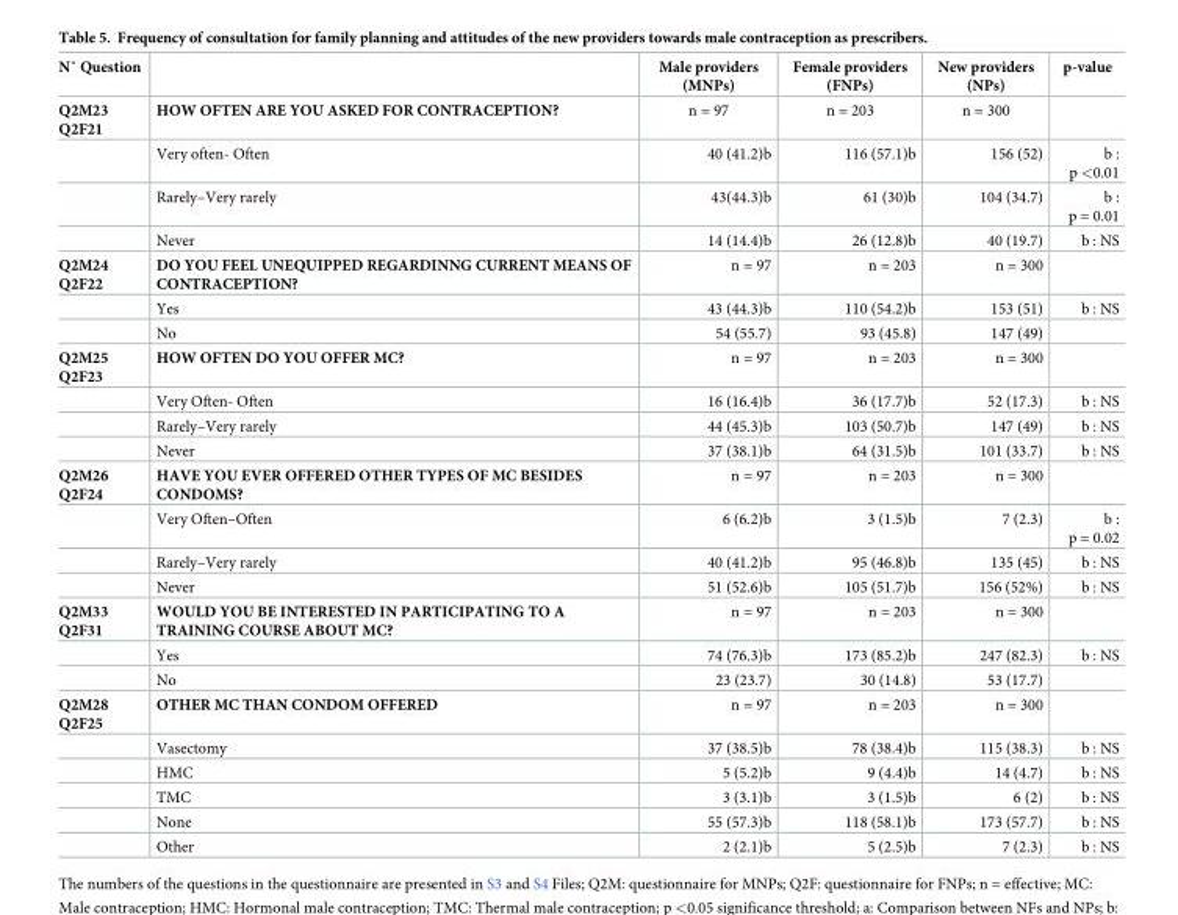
<table><thead><tr><td>N˚ Question</td><td></td><td>Male providers (MNPs)</td><td>Female providers (FNPs)</td><td>New providers (NPs)</td><td>p-value</td></tr></thead><tbody><tr><td rowspan="4">Q2M23 Q2F21</td><td>HOW OFTEN ARE YOU ASKED FOR CONTRACEPTION?</td><td>n = 97</td><td>n = 203</td><td>n = 300</td><td></td></tr><tr><td>Very often- Often</td><td>40 (41.2)b</td><td>116 (57.1)b</td><td>156 (52)</td><td>b : p &lt;0.01</td></tr><tr><td>Rarely–Very rarely</td><td>43(44.3)b</td><td>61 (30)b</td><td>104 (34.7)</td><td>b : p = 0.01</td></tr><tr><td>Never</td><td>14 (14.4)b</td><td>26 (12.8)b</td><td>40 (19.7)</td><td>b : NS</td></tr><tr><td rowspan="3">Q2M24 Q2F22</td><td>DO YOU FEEL UNEQUIPPED REGARDINNG CURRENT MEANS OF CONTRACEPTION?</td><td>n = 97</td><td>n = 203</td><td>n = 300</td><td></td></tr><tr><td>Yes</td><td>43 (44.3)b</td><td>110 (54.2)b</td><td>153 (51)</td><td>b : NS</td></tr><tr><td>No</td><td>54 (55.7)</td><td>93 (45.8)</td><td>147 (49)</td><td></td></tr><tr><td rowspan="4">Q2M25 Q2F23</td><td>HOW OFTEN DO YOU OFFER MC?</td><td>n = 97</td><td>n = 203</td><td>n = 300</td><td></td></tr><tr><td>Very Often- Often</td><td>16 (16.4)b</td><td>36 (17.7)b</td><td>52 (17.3)</td><td>b : NS</td></tr><tr><td>Rarely–Very rarely</td><td>44 (45.3)b</td><td>103 (50.7)b</td><td>147 (49)</td><td>b : NS</td></tr><tr><td>Never</td><td>37 (38.1)b</td><td>64 (31.5)b</td><td>101 (33.7)</td><td>b : NS</td></tr><tr><td rowspan="4">Q2M26 Q2F24</td><td>HAVE YOU EVER OFFERED OTHER TYPES OF MC BESIDES CONDOMS?</td><td>n = 97</td><td>n = 203</td><td>n = 300</td><td></td></tr><tr><td>Very Often–Often</td><td>6 (6.2)b</td><td>3 (1.5)b</td><td>7 (2.3)</td><td>b : p = 0.02</td></tr><tr><td>Rarely–Very rarely</td><td>40 (41.2)b</td><td>95 (46.8)b</td><td>135 (45)</td><td>b : NS</td></tr><tr><td>Never</td><td>51 (52.6)b</td><td>105 (51.7)b</td><td>156 (52%)</td><td>b : NS</td></tr><tr><td rowspan="3">Q2M33 Q2F31</td><td>WOULD YOU BE INTERESTED IN PARTICIPATING TO A TRAINING COURSE ABOUT MC?</td><td>n = 97</td><td>n = 203</td><td>n = 300</td><td></td></tr><tr><td>Yes</td><td>74 (76.3)b</td><td>173 (85.2)b</td><td>247 (82.3)</td><td>b : NS</td></tr><tr><td>No</td><td>23 (23.7)</td><td>30 (14.8)</td><td>53 (17.7)</td><td></td></tr><tr><td rowspan="6">Q2M28 Q2F25</td><td>OTHER MC THAN CONDOM OFFERED</td><td>n = 97</td><td>n = 203</td><td>n = 300</td><td></td></tr><tr><td>Vasectomy</td><td>37 (38.5)b</td><td>78 (38.4)b</td><td>115 (38.3)</td><td>b : NS</td></tr><tr><td>HMC</td><td>5 (5.2)b</td><td>9 (4.4)b</td><td>14 (4.7)</td><td>b : NS</td></tr><tr><td>TMC</td><td>3 (3.1)b</td><td>3 (1.5)b</td><td>6 (2)</td><td>b : NS</td></tr><tr><td>None</td><td>55 (57.3)b</td><td>118 (58.1)b</td><td>173 (57.7)</td><td>b : NS</td></tr><tr><td>Other</td><td>2 (2.1)b</td><td>5 (2.5)b</td><td>7 (2.3)</td><td>b : NS</td></tr></tbody></table>